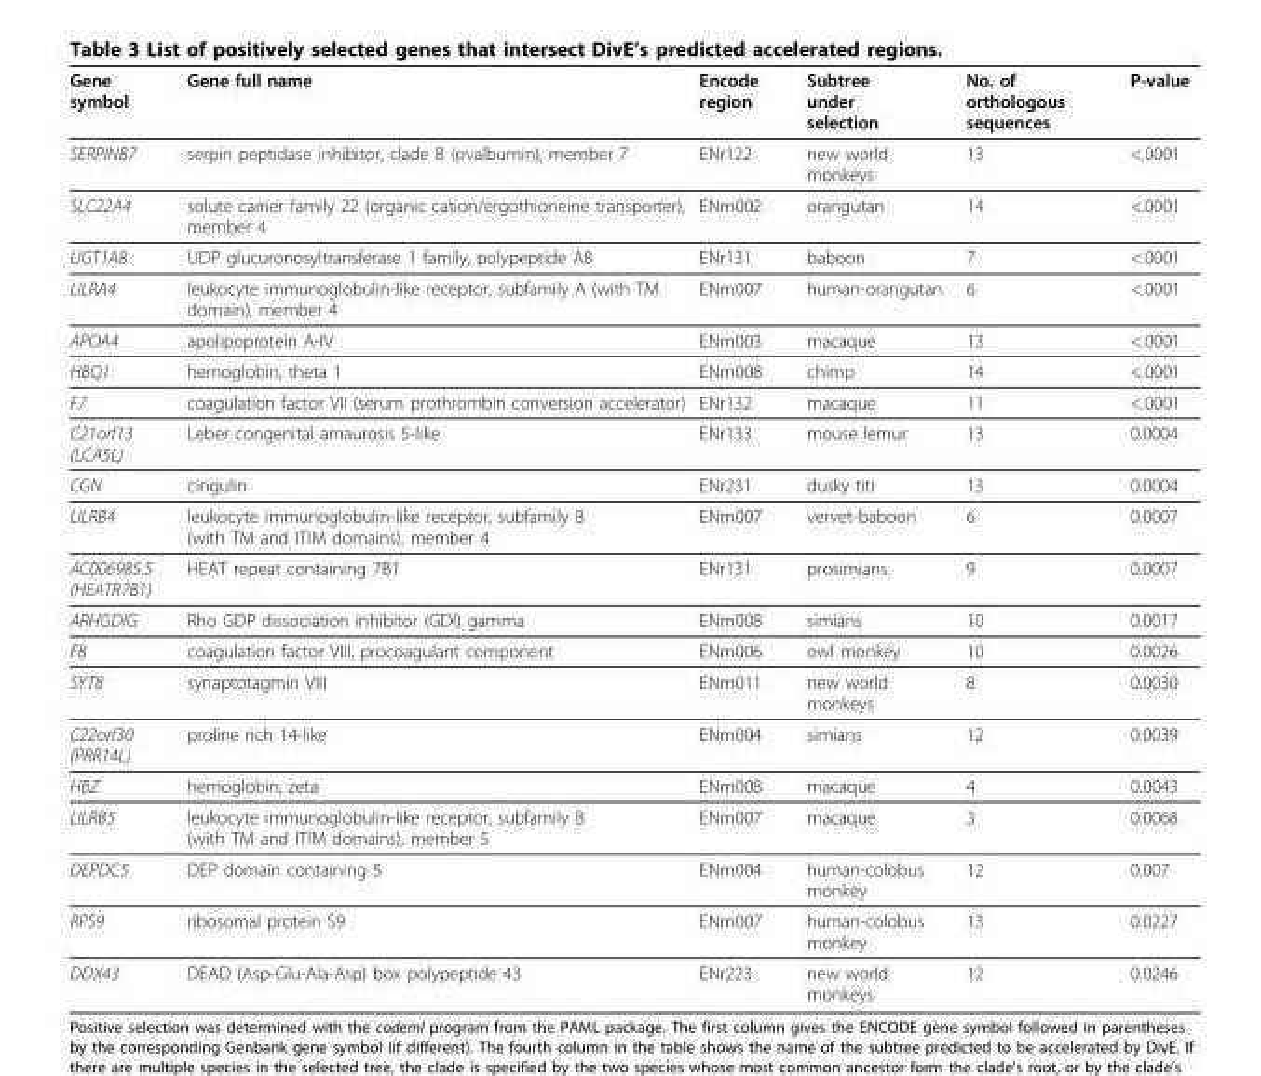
<table><thead><tr><td>Gene symbol</td><td>Gene full name</td><td>Encode region</td><td>Subtree under selection</td><td>No. of orthologous sequences</td><td>P-value</td></tr></thead><tbody><tr><td>SERPINB7</td><td>serpin peptidase inhibitor, clade B (ovalbumin), member 7</td><td>ENr122</td><td>new world monkeys</td><td>13</td><td>&lt;.0001</td></tr><tr><td>SLC22A4</td><td>solute carrier family 22 (organic cation/ergothioneine transporter), member 4</td><td>ENm002</td><td>orangutan</td><td>14</td><td>&lt;.0001</td></tr><tr><td>UGT1A8</td><td>UDP glucuronosyltransferase 1 family, polypeptide A8</td><td>ENr131</td><td>baboon</td><td>7</td><td>&lt;.0001</td></tr><tr><td>LILRA4</td><td>leukocyte immunoglobulin-like receptor, subfamily A (with TM domain), member 4</td><td>ENm007</td><td>human-orangutan</td><td>6</td><td>&lt;.0001</td></tr><tr><td>APOA4</td><td>apolipoprotein A-IV</td><td>ENm003</td><td>macaque</td><td>13</td><td>&lt;.0001</td></tr><tr><td>HBQ1</td><td>hemoglobin, theta 1</td><td>ENm008</td><td>chimp</td><td>14</td><td>&lt;.0001</td></tr><tr><td>F7</td><td>coagulation factor VII (serum prothrombin conversion accelerator)</td><td>ENr132</td><td>macaque</td><td>11</td><td>&lt;.0001</td></tr><tr><td>C21orf13 (LCA5L)</td><td>Leber congenital amaurosis 5-like</td><td>ENr133</td><td>mouse lemur</td><td>13</td><td>0.0004</td></tr><tr><td>CGN</td><td>cingulin</td><td>ENr231</td><td>dusky titi</td><td>13</td><td>0.0004</td></tr><tr><td>LILRB4</td><td>leukocyte immunoglobulin-like receptor, subfamily B (with TM and ITIM domains), member 4</td><td>ENm007</td><td>vervet-baboon</td><td>6</td><td>0.0007</td></tr><tr><td>AC006985.5 (HEATR7B1)</td><td>HEAT repeat containing 7B1</td><td>ENr131</td><td>prosimians</td><td>9</td><td>0.0007</td></tr><tr><td>ARHGDIG</td><td>Rho GDP dissociation inhibitor (GDI) gamma</td><td>ENm008</td><td>simians</td><td>10</td><td>0.0017</td></tr><tr><td>F8</td><td>coagulation factor VIII, procoagulant component</td><td>ENm006</td><td>owl monkey</td><td>10</td><td>0.0026</td></tr><tr><td>SYT8</td><td>synaptotagmin VIII</td><td>ENm011</td><td>new world monkeys</td><td>8</td><td>0.0030</td></tr><tr><td>C22orf30 (PRR14L)</td><td>proline rich 14-like</td><td>ENm004</td><td>simians</td><td>12</td><td>0.0039</td></tr><tr><td>HBZ</td><td>hemoglobin, zeta</td><td>ENm008</td><td>macaque</td><td>4</td><td>0.0043</td></tr><tr><td>LILRB5</td><td>leukocyte immunoglobulin-like receptor, subfamily B (with TM and ITIM domains), member 5</td><td>ENm007</td><td>macaque</td><td>3</td><td>0.0068</td></tr><tr><td>DEPDC5</td><td>DEP domain containing 5</td><td>ENm004</td><td>human-colobus monkey</td><td>12</td><td>0.007</td></tr><tr><td>RPS9</td><td>ribosomal protein S9</td><td>ENm007</td><td>human-colobus monkey</td><td>13</td><td>0.0227</td></tr><tr><td>DDX43</td><td>DEAD (Asp-Glu-Ala-Asp) box polypeptide 43</td><td>ENr223</td><td>new world monkeys</td><td>12</td><td>0.0246</td></tr></tbody></table>